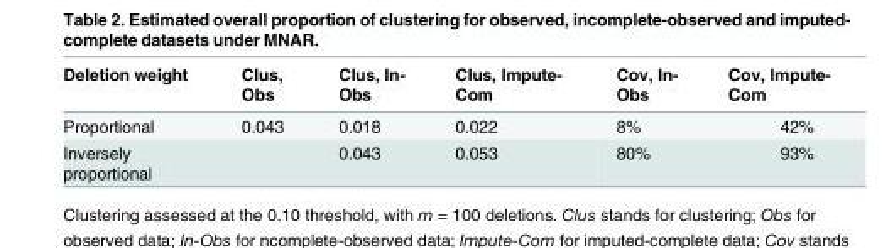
<table><thead><tr><td>Deletion weight</td><td>Clus, Obs</td><td>Clus, In- Obs</td><td>Clus, Impute- Com</td><td>Cov, In- Obs</td><td>Cov, Impute- Com</td></tr></thead><tbody><tr><td>Proportional</td><td>0.043</td><td>0.018</td><td>0.022</td><td>8%</td><td>42%</td></tr><tr><td>Inversely proportional</td><td></td><td>0.043</td><td>0.053</td><td>80%</td><td>93%</td></tr></tbody></table>